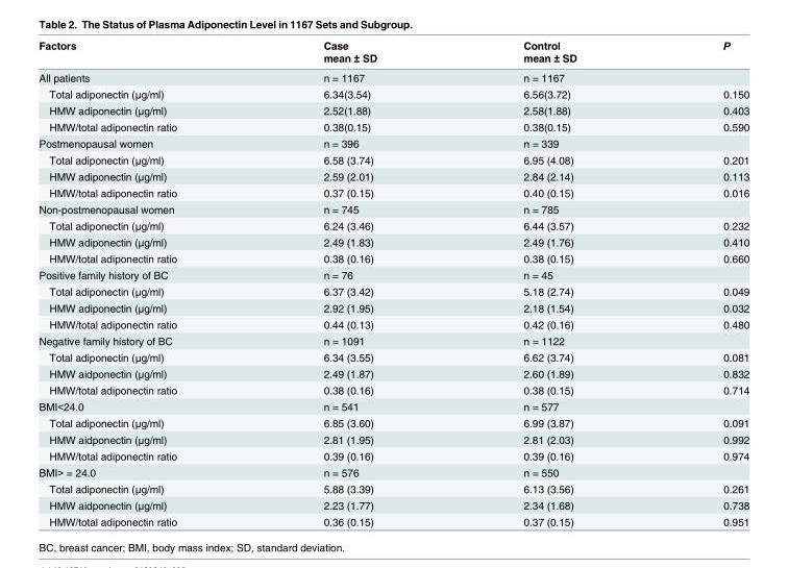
<table><thead><tr><td rowspan="2">Factors</td><td rowspan="2">Case mean ± SD</td><td rowspan="2">Control mean ± SD</td><td rowspan="2">P</td></tr><tr></tr></thead><tbody><tr><td>All patients</td><td>n = 1167</td><td>n = 1167</td><td></td></tr><tr><td>Total adiponectin (μg/ml)</td><td>6.34(3.54)</td><td>6.56(3.72)</td><td>0.150</td></tr><tr><td>HMW adiponectin (μg/ml)</td><td>2.52(1.88)</td><td>2.58(1.88)</td><td>0.403</td></tr><tr><td>HMW/total adiponectin ratio</td><td>0.38(0.15)</td><td>0.38(0.15)</td><td>0.590</td></tr><tr><td>Postmenopausal women</td><td>n = 396</td><td>n = 339</td><td></td></tr><tr><td>Total adiponectin (μg/ml)</td><td>6.58 (3.74)</td><td>6.95 (4.08)</td><td>0.201</td></tr><tr><td>HMW adiponectin (μg/ml)</td><td>2.59 (2.01)</td><td>2.84 (2.14)</td><td>0.113</td></tr><tr><td>HMW/total adiponectin ratio</td><td>0.37 (0.15)</td><td>0.40 (0.15)</td><td>0.016</td></tr><tr><td>Non-postmenopausal women</td><td>n = 745</td><td>n = 785</td><td></td></tr><tr><td>Total adiponectin (μg/ml)</td><td>6.24 (3.46)</td><td>6.44 (3.57)</td><td>0.232</td></tr><tr><td>HMW adiponectin (μg/ml)</td><td>2.49 (1.83)</td><td>2.49 (1.76)</td><td>0.410</td></tr><tr><td>HMW/total adiponectin ratio</td><td>0.38 (0.16)</td><td>0.38 (0.15)</td><td>0.660</td></tr><tr><td>Positive family history of BC</td><td>n = 76</td><td>n = 45</td><td></td></tr><tr><td>Total adiponectin (μg/ml)</td><td>6.37 (3.42)</td><td>5.18 (2.74)</td><td>0.049</td></tr><tr><td>HMW adiponectin (μg/ml)</td><td>2.92 (1.95)</td><td>2.18 (1.54)</td><td>0.032</td></tr><tr><td>HMW/total adiponectin ratio</td><td>0.44 (0.13)</td><td>0.42 (0.16)</td><td>0.480</td></tr><tr><td>Negative family history of BC</td><td>n = 1091</td><td>n = 1122</td><td></td></tr><tr><td>Total adiponectin (μg/ml)</td><td>6.34 (3.55)</td><td>6.62 (3.74)</td><td>0.081</td></tr><tr><td>HMW aidponectin (μg/ml)</td><td>2.49 (1.87)</td><td>2.60 (1.89)</td><td>0.832</td></tr><tr><td>HMW/total adiponectin ratio</td><td>0.38 (0.16)</td><td>0.38 (0.15)</td><td>0.714</td></tr><tr><td>BMI&lt;24.0</td><td>n = 541</td><td>n = 577</td><td></td></tr><tr><td>Total adiponectin (μg/ml)</td><td>6.85 (3.60)</td><td>6.99 (3.87)</td><td>0.091</td></tr><tr><td>HMW aidponectin (μg/ml)</td><td>2.81 (1.95)</td><td>2.81 (2.03)</td><td>0.992</td></tr><tr><td>HMW/total adiponectin ratio</td><td>0.39 (0.16)</td><td>0.39 (0.16)</td><td>0.974</td></tr><tr><td>BMI&gt; = 24.0</td><td>n = 576</td><td>n = 550</td><td></td></tr><tr><td>Total adiponectin (μg/ml)</td><td>5.88 (3.39)</td><td>6.13 (3.56)</td><td>0.261</td></tr><tr><td>HMW aidponectin (μg/ml)</td><td>2.23 (1.77)</td><td>2.34 (1.68)</td><td>0.738</td></tr><tr><td>HMW/total adiponectin ratio</td><td>0.36 (0.15)</td><td>0.37 (0.15)</td><td>0.951</td></tr></tbody></table>